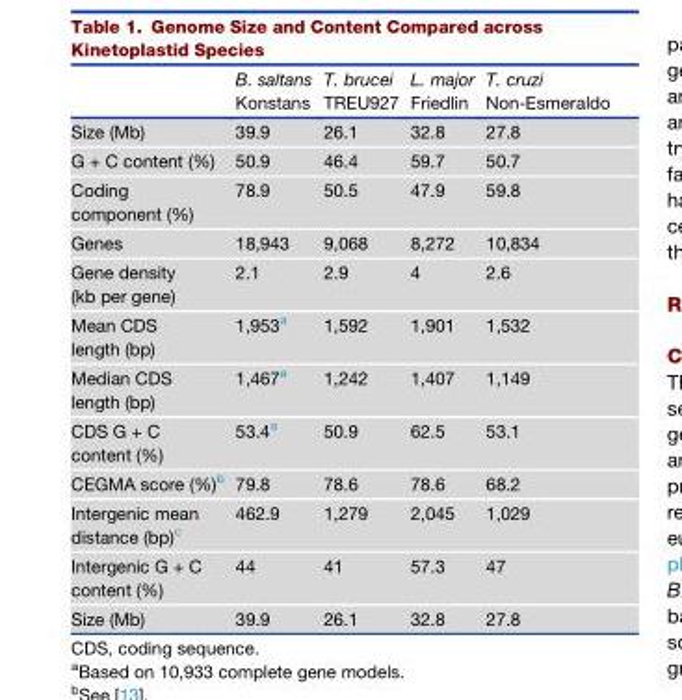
<table><thead><tr><td></td><td>B. saltans Konstans</td><td>T. brucei TREU927</td><td>L. major Friedlin</td><td>T. cruzi Non-Esmeraldo</td></tr></thead><tbody><tr><td>Size (Mb)</td><td>39.9</td><td>26.1</td><td>32.8</td><td>27.8</td></tr><tr><td>G + C content (%)</td><td>50.9</td><td>46.4</td><td>59.7</td><td>50.7</td></tr><tr><td>Coding component (%)</td><td>78.9</td><td>50.5</td><td>47.9</td><td>59.8</td></tr><tr><td>Genes</td><td>18,943</td><td>9,068</td><td>8,272</td><td>10,834</td></tr><tr><td>Gene density (kb per gene)</td><td>2.1</td><td>2.9</td><td>4</td><td>2.6</td></tr><tr><td>Mean CDS length (bp)</td><td>1,953<sup>a</sup></td><td>1,592</td><td>1,901</td><td>1,532</td></tr><tr><td>Median CDS length (bp)</td><td>1,467<sup>a</sup></td><td>1,242</td><td>1,407</td><td>1,149</td></tr><tr><td>CDS G + C content (%)</td><td>53.4<sup>a</sup></td><td>50.9</td><td>62.5</td><td>53.1</td></tr><tr><td>CEGMA score (%)<sup>b</sup></td><td>79.8</td><td>78.6</td><td>78.6</td><td>68.2</td></tr><tr><td>Intergenic mean distance (bp)<sup>c</sup></td><td>462.9</td><td>1,279</td><td>2,045</td><td>1,029</td></tr><tr><td>Intergenic G + C content (%)</td><td>44</td><td>41</td><td>57.3</td><td>47</td></tr><tr><td>Size (Mb)</td><td>39.9</td><td>26.1</td><td>32.8</td><td>27.8</td></tr></tbody></table>